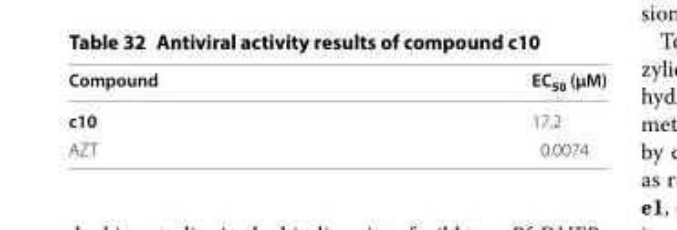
<table><thead><tr><td>Compound</td><td>EC<sub>50</sub> (µM)</td></tr></thead><tbody><tr><td>c10</td><td>17.2</td></tr><tr><td>AZT</td><td>0.0074</td></tr></tbody></table>